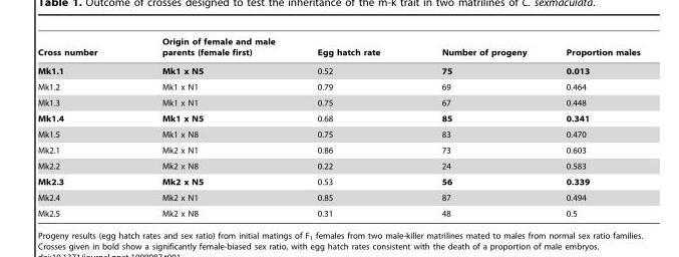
<table><thead><tr><td>Cross number</td><td>Origin of female and male parents (female first)</td><td>Egg hatch rate</td><td>Number of progeny</td><td>Proportion males</td></tr></thead><tbody><tr><td>Mk1.1</td><td>Mk1 x N5</td><td>0.52</td><td>75</td><td>0.013</td></tr><tr><td>Mk1.2</td><td>Mk1 x N1</td><td>0.79</td><td>69</td><td>0.464</td></tr><tr><td>Mk1.3</td><td>Mk1 x N1</td><td>0.75</td><td>67</td><td>0.448</td></tr><tr><td>Mk1.4</td><td>Mk1 x N5</td><td>0.68</td><td>85</td><td>0.341</td></tr><tr><td>Mk1.5</td><td>Mk1 x N8</td><td>0.75</td><td>83</td><td>0.470</td></tr><tr><td>Mk2.1</td><td>Mk2 x N1</td><td>0.86</td><td>73</td><td>0.603</td></tr><tr><td>Mk2.2</td><td>Mk2 x N8</td><td>0.22</td><td>24</td><td>0.583</td></tr><tr><td>Mk2.3</td><td>Mk2 x N5</td><td>0.53</td><td>56</td><td>0.339</td></tr><tr><td>Mk2.4</td><td>Mk2 x N1</td><td>0.85</td><td>87</td><td>0.494</td></tr><tr><td>Mk2.5</td><td>Mk2 x N8</td><td>0.31</td><td>48</td><td>0.5</td></tr></tbody></table>